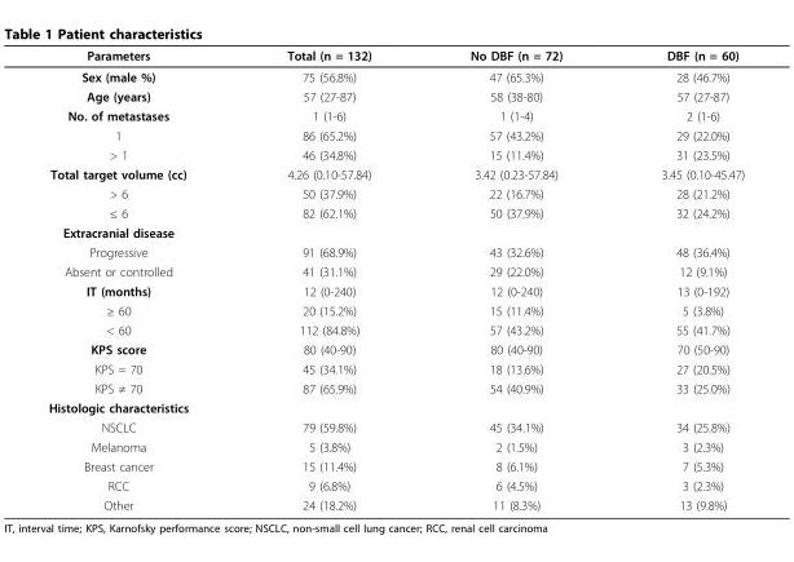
<table><thead><tr><td>Parameters</td><td>Total (n = 132)</td><td>No DBF (n = 72)</td><td>DBF (n = 60)</td></tr></thead><tbody><tr><td>Sex (male %)</td><td>75 (56.8%)</td><td>47 (65.3%)</td><td>28 (46.7%)</td></tr><tr><td>Age (years)</td><td>57 (27-87)</td><td>58 (38-80)</td><td>57 (27-87)</td></tr><tr><td>No. of metastases</td><td>1 (1-6)</td><td>1 (1-4)</td><td>2 (1-6)</td></tr><tr><td>1</td><td>86 (65.2%)</td><td>57 (43.2%)</td><td>29 (22.0%)</td></tr><tr><td>&gt; 1</td><td>46 (34.8%)</td><td>15 (11.4%)</td><td>31 (23.5%)</td></tr><tr><td>Total target volume (cc)</td><td>4.26 (0.10-57.84)</td><td>3.42 (0.23-57.84)</td><td>3.45 (0.10-45.47)</td></tr><tr><td>&gt; 6</td><td>50 (37.9%)</td><td>22 (16.7%)</td><td>28 (21.2%)</td></tr><tr><td>≤ 6</td><td>82 (62.1%)</td><td>50 (37.9%)</td><td>32 (24.2%)</td></tr><tr><td colspan="4">Extracranial disease</td></tr><tr><td>Progressive</td><td>91 (68.9%)</td><td>43 (32.6%)</td><td>48 (36.4%)</td></tr><tr><td>Absent or controlled</td><td>41 (31.1%)</td><td>29 (22.0%)</td><td>12 (9.1%)</td></tr><tr><td>IT (months)</td><td>12 (0-240)</td><td>12 (0-240)</td><td>13 (0-192)</td></tr><tr><td>≥ 60</td><td>20 (15.2%)</td><td>15 (11.4%)</td><td>5 (3.8%)</td></tr><tr><td>&lt; 60</td><td>112 (84.8%)</td><td>57 (43.2%)</td><td>55 (41.7%)</td></tr><tr><td>KPS score</td><td>80 (40-90)</td><td>80 (40-90)</td><td>70 (50-90)</td></tr><tr><td>KPS = 70</td><td>45 (34.1%)</td><td>18 (13.6%)</td><td>27 (20.5%)</td></tr><tr><td>KPS ≠ 70</td><td>87 (65.9%)</td><td>54 (40.9%)</td><td>33 (25.0%)</td></tr><tr><td colspan="4">Histologic characteristics</td></tr><tr><td>NSCLC</td><td>79 (59.8%)</td><td>45 (34.1%)</td><td>34 (25.8%)</td></tr><tr><td>Melanoma</td><td>5 (3.8%)</td><td>2 (1.5%)</td><td>3 (2.3%)</td></tr><tr><td>Breast cancer</td><td>15 (11.4%)</td><td>8 (6.1%)</td><td>7 (5.3%)</td></tr><tr><td>RCC</td><td>9 (6.8%)</td><td>6 (4.5%)</td><td>3 (2.3%)</td></tr><tr><td>Other</td><td>24 (18.2%)</td><td>11 (8.3%)</td><td>13 (9.8%)</td></tr></tbody></table>